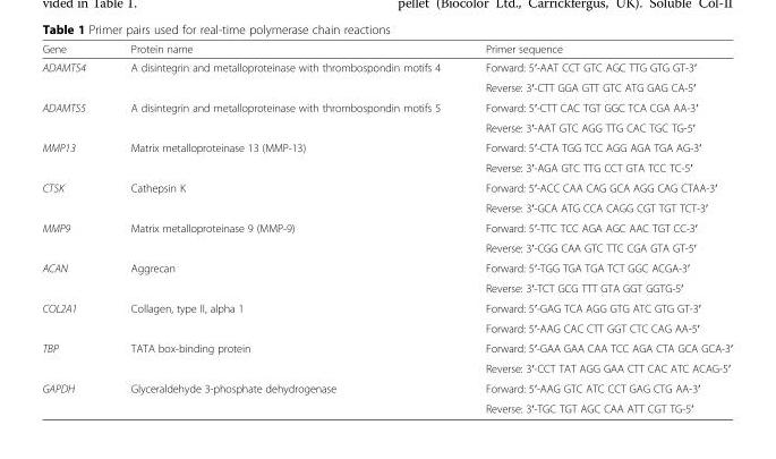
<table><thead><tr><td>Gene</td><td>Protein name</td><td>Primer sequence</td></tr></thead><tbody><tr><td rowspan="2">ADAMTS4</td><td rowspan="2">A disintegrin and metalloproteinase with thrombospondin motifs 4</td><td>Forward: 5′-AAT CCT GTC AGC TTG GTG GT-3′</td></tr><tr><td>Reverse: 3′-CTT GGA GTT GTC ATG GAG CA-5′</td></tr><tr><td rowspan="2">ADAMTS5</td><td rowspan="2">A disintegrin and metalloproteinase with thrombospondin motifs 5</td><td>Forward: 5′-CTT CAC TGT GGC TCA CGA AA-3′</td></tr><tr><td>Reverse: 3′-AAT GTC AGG TTG CAC TGC TG-5′</td></tr><tr><td rowspan="2">MMP13</td><td rowspan="2">Matrix metalloproteinase 13 (MMP-13)</td><td>Forward: 5′-CTA TGG TCC AGG AGA TGA AG-3′</td></tr><tr><td>Reverse: 3′-AGA GTC TTG CCT GTA TCC TC-5′</td></tr><tr><td rowspan="2">CTSK</td><td rowspan="2">Cathepsin K</td><td>Forward: 5′-ACC CAA CAG GCA AGG CAG CTAA-3′</td></tr><tr><td>Reverse: 3′-GCA ATG CCA CAGG CGT TGT TCT-3′</td></tr><tr><td rowspan="2">MMP9</td><td rowspan="2">Matrix metalloproteinase 9 (MMP-9)</td><td>Forward: 5′-TTC TCC AGA AGC AAC TGT CC-3′</td></tr><tr><td>Reverse: 3′-CGG CAA GTC TTC CGA GTA GT-5′</td></tr><tr><td rowspan="2">ACAN</td><td rowspan="2">Aggrecan</td><td>Forward: 5′-TGG TGA TGA TCT GGC ACGA-3′</td></tr><tr><td>Reverse: 3′-TCT GCG TTT GTA GGT GGTG-5′</td></tr><tr><td rowspan="2">COL2A1</td><td rowspan="2">Collagen, type II, alpha 1</td><td>Forward: 5′-GAG TCA AGG GTG ATC GTG GT-3′</td></tr><tr><td>Forward: 5′-AAG CAC CTT GGT CTC CAG AA-5′</td></tr><tr><td rowspan="2">TBP</td><td rowspan="2">TATA box-binding protein</td><td>Forward: 5′-GAA GAA CAA TCC AGA CTA GCA GCA-3′</td></tr><tr><td>Reverse: 3′-CCT TAT AGG GAA CTT CAC ATC ACAG-5′</td></tr><tr><td rowspan="2">GAPDH</td><td rowspan="2">Glyceraldehyde 3-phosphate dehydrogenase</td><td>Forward: 5′-AAG GTC ATC CCT GAG CTG AA-3′</td></tr><tr><td>Reverse: 3′-TGC TGT AGC CAA ATT CGT TG-5′</td></tr></tbody></table>